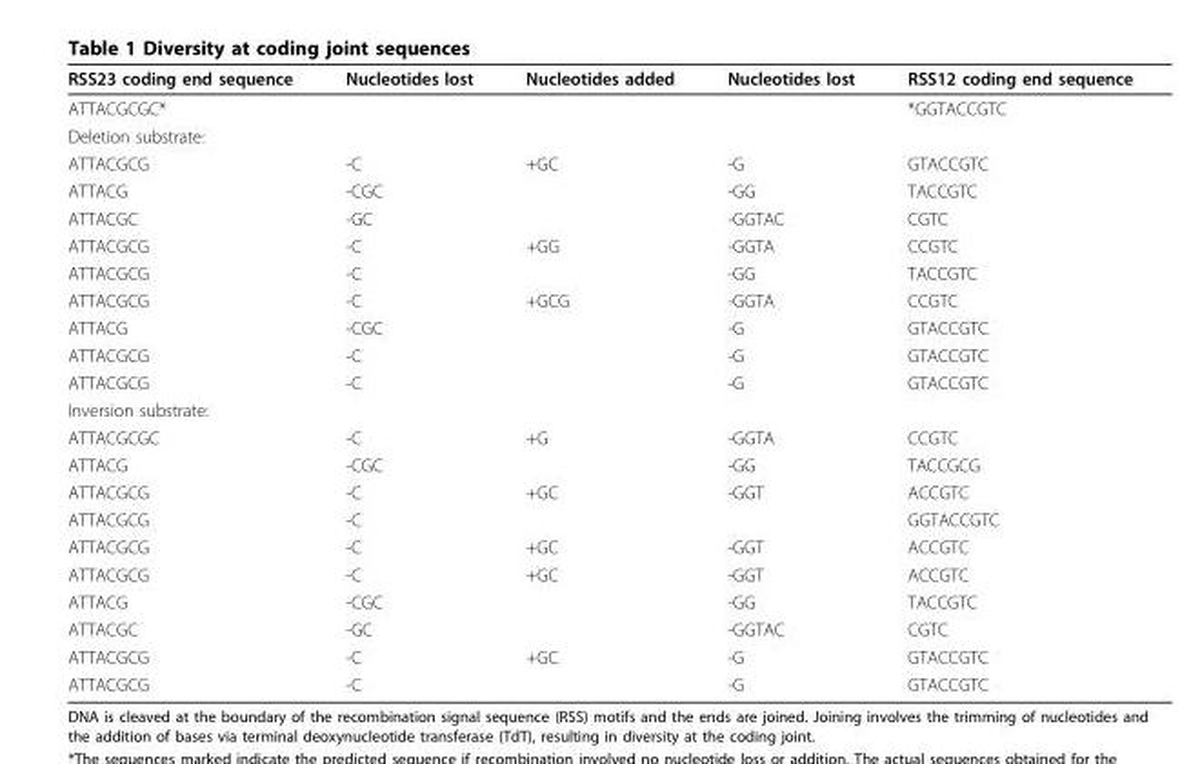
<table><thead><tr><td>RSS23 coding end sequence</td><td>Nucleotides lost</td><td>Nucleotides added</td><td>Nucleotides lost</td><td>RSS12 coding end sequence</td></tr></thead><tbody><tr><td>ATTACGCGC*</td><td></td><td></td><td></td><td>*GGTACCGTC</td></tr><tr><td colspan="5">Deletion substrate:</td></tr><tr><td>ATTACGCG</td><td>-C</td><td>+GC</td><td>-G</td><td>GTACCGTC</td></tr><tr><td>ATTACG</td><td>-CGC</td><td></td><td>-GG</td><td>TACCGTC</td></tr><tr><td>ATTACGC</td><td>-GC</td><td></td><td>-GGTAC</td><td>CGTC</td></tr><tr><td>ATTACGCG</td><td>-C</td><td>+GG</td><td>-GGTA</td><td>CCGTC</td></tr><tr><td>ATTACGCG</td><td>-C</td><td></td><td>-GG</td><td>TACCGTC</td></tr><tr><td>ATTACGCG</td><td>-C</td><td>+GCG</td><td>-GGTA</td><td>CCGTC</td></tr><tr><td>ATTACG</td><td>-CGC</td><td></td><td>-G</td><td>GTACCGTC</td></tr><tr><td>ATTACGCG</td><td>-C</td><td></td><td>-G</td><td>GTACCGTC</td></tr><tr><td>ATTACGCG</td><td>-C</td><td></td><td>-G</td><td>GTACCGTC</td></tr><tr><td colspan="5">Inversion substrate:</td></tr><tr><td>ATTACGCGC</td><td>-C</td><td>+G</td><td>-GGTA</td><td>CCGTC</td></tr><tr><td>ATTACG</td><td>-CGC</td><td></td><td>-GG</td><td>TACCGCG</td></tr><tr><td>ATTACGCG</td><td>-C</td><td>+GC</td><td>-GGT</td><td>ACCGTC</td></tr><tr><td>ATTACGCG</td><td>-C</td><td></td><td></td><td>GGTACCGTC</td></tr><tr><td>ATTACGCG</td><td>-C</td><td>+GC</td><td>-GGT</td><td>ACCGTC</td></tr><tr><td>ATTACGCG</td><td>-C</td><td>+GC</td><td>-GGT</td><td>ACCGTC</td></tr><tr><td>ATTACG</td><td>-CGC</td><td></td><td>-GG</td><td>TACCGTC</td></tr><tr><td>ATTACGC</td><td>-GC</td><td></td><td>-GGTAC</td><td>CGTC</td></tr><tr><td>ATTACGCG</td><td>-C</td><td>+GC</td><td>-G</td><td>GTACCGTC</td></tr><tr><td>ATTACGCG</td><td>-C</td><td></td><td>-G</td><td>GTACCGTC</td></tr></tbody></table>